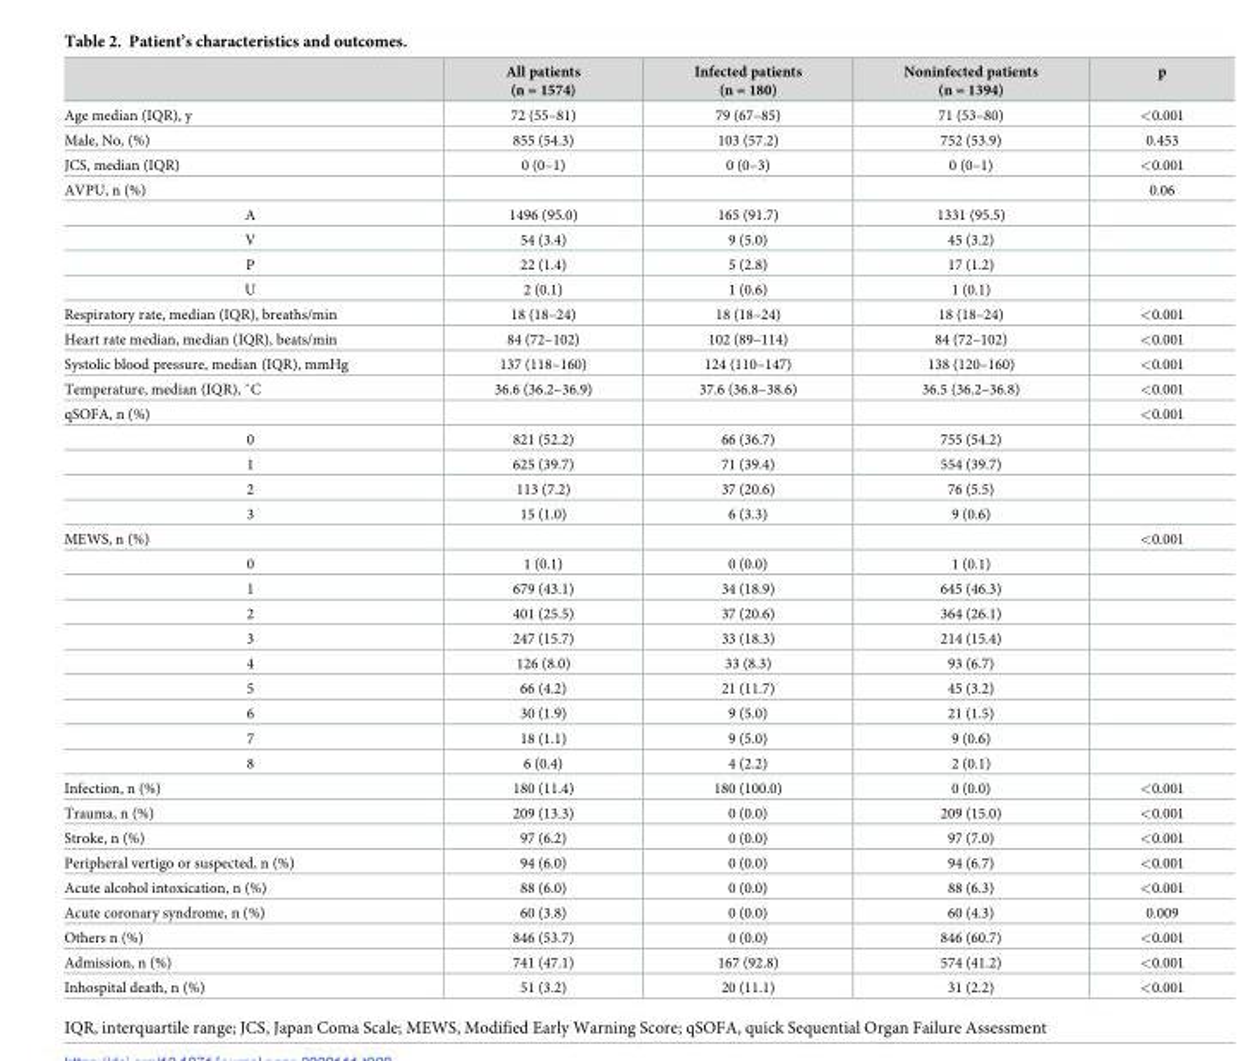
<table><thead><tr><td></td><td>All patients (n = 1574)</td><td>Infected patients (n = 180)</td><td>Noninfected patients (n = 1394)</td><td>p</td></tr></thead><tbody><tr><td>Age median (IQR), y</td><td>72 (55–81)</td><td>79 (67–85)</td><td>71 (53–80)</td><td>&lt;0.001</td></tr><tr><td>Male, No, (%)</td><td>855 (54.3)</td><td>103 (57.2)</td><td>752 (53.9)</td><td>0.453</td></tr><tr><td>JCS, median (IQR)</td><td>0 (0–1)</td><td>0 (0–3)</td><td>0 (0–1)</td><td>&lt;0.001</td></tr><tr><td>AVPU, n (%)</td><td></td><td></td><td></td><td>0.06</td></tr><tr><td>A</td><td>1496 (95.0)</td><td>165 (91.7)</td><td>1331 (95.5)</td><td></td></tr><tr><td>V</td><td>54 (3.4)</td><td>9 (5.0)</td><td>45 (3.2)</td><td></td></tr><tr><td>P</td><td>22 (1.4)</td><td>5 (2.8)</td><td>17 (1.2)</td><td></td></tr><tr><td>U</td><td>2 (0.1)</td><td>1 (0.6)</td><td>1 (0.1)</td><td></td></tr><tr><td>Respiratory rate, median (IQR), breaths/min</td><td>18 (18–24)</td><td>18 (18–24)</td><td>18 (18–24)</td><td>&lt;0.001</td></tr><tr><td>Heart rate median, median (IQR), beats/min</td><td>84 (72–102)</td><td>102 (89–114)</td><td>84 (72–102)</td><td>&lt;0.001</td></tr><tr><td>Systolic blood pressure, median (IQR), mmHg</td><td>137 (118–160)</td><td>124 (110–147)</td><td>138 (120–160)</td><td>&lt;0.001</td></tr><tr><td>Temperature, median (IQR), ˚C</td><td>36.6 (36.2–36.9)</td><td>37.6 (36.8–38.6)</td><td>36.5 (36.2–36.8)</td><td>&lt;0.001</td></tr><tr><td>qSOFA, n (%)</td><td></td><td></td><td></td><td>&lt;0.001</td></tr><tr><td>0</td><td>821 (52.2)</td><td>66 (36.7)</td><td>755 (54.2)</td><td></td></tr><tr><td>1</td><td>625 (39.7)</td><td>71 (39.4)</td><td>554 (39.7)</td><td></td></tr><tr><td>2</td><td>113 (7.2)</td><td>37 (20.6)</td><td>76 (5.5)</td><td></td></tr><tr><td>3</td><td>15 (1.0)</td><td>6 (3.3)</td><td>9 (0.6)</td><td></td></tr><tr><td>MEWS, n (%)</td><td></td><td></td><td></td><td>&lt;0.001</td></tr><tr><td>0</td><td>1 (0.1)</td><td>0 (0.0)</td><td>1 (0.1)</td><td></td></tr><tr><td>1</td><td>679 (43.1)</td><td>34 (18.9)</td><td>645 (46.3)</td><td></td></tr><tr><td>2</td><td>401 (25.5)</td><td>37 (20.6)</td><td>364 (26.1)</td><td></td></tr><tr><td>3</td><td>247 (15.7)</td><td>33 (18.3)</td><td>214 (15.4)</td><td></td></tr><tr><td>4</td><td>126 (8.0)</td><td>33 (8.3)</td><td>93 (6.7)</td><td></td></tr><tr><td>5</td><td>66 (4.2)</td><td>21 (11.7)</td><td>45 (3.2)</td><td></td></tr><tr><td>6</td><td>30 (1.9)</td><td>9 (5.0)</td><td>21 (1.5)</td><td></td></tr><tr><td>7</td><td>18 (1.1)</td><td>9 (5.0)</td><td>9 (0.6)</td><td></td></tr><tr><td>8</td><td>6 (0.4)</td><td>4 (2.2)</td><td>2 (0.1)</td><td></td></tr><tr><td>Infection, n (%)</td><td>180 (11.4)</td><td>180 (100.0)</td><td>0 (0.0)</td><td>&lt;0.001</td></tr><tr><td>Trauma, n (%)</td><td>209 (13.3)</td><td>0 (0.0)</td><td>209 (15.0)</td><td>&lt;0.001</td></tr><tr><td>Stroke, n (%)</td><td>97 (6.2)</td><td>0 (0.0)</td><td>97 (7.0)</td><td>&lt;0.001</td></tr><tr><td>Peripheral vertigo or suspected, n (%)</td><td>94 (6.0)</td><td>0 (0.0)</td><td>94 (6.7)</td><td>&lt;0.001</td></tr><tr><td>Acute alcohol intoxication, n (%)</td><td>88 (6.0)</td><td>0 (0.0)</td><td>88 (6.3)</td><td>&lt;0.001</td></tr><tr><td>Acute coronary syndrome, n (%)</td><td>60 (3.8)</td><td>0 (0.0)</td><td>60 (4.3)</td><td>0.009</td></tr><tr><td>Others n (%)</td><td>846 (53.7)</td><td>0 (0.0)</td><td>846 (60.7)</td><td>&lt;0.001</td></tr><tr><td>Admission, n (%)</td><td>741 (47.1)</td><td>167 (92.8)</td><td>574 (41.2)</td><td>&lt;0.001</td></tr><tr><td>Inhospital death, n (%)</td><td>51 (3.2)</td><td>20 (11.1)</td><td>31 (2.2)</td><td>&lt;0.001</td></tr></tbody></table>